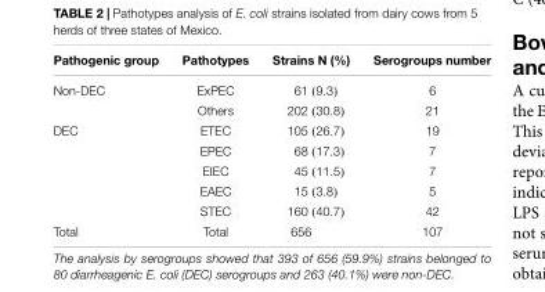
<table><thead><tr><td>Pathogenic group</td><td>Pathotypes</td><td>Strains N (%)</td><td>Serogroups number</td></tr></thead><tbody><tr><td rowspan="2">Non-DEC</td><td>ExPEC</td><td>61 (9.3)</td><td>6</td></tr><tr><td>Others</td><td>202 (30.8)</td><td>21</td></tr><tr><td rowspan="5">DEC</td><td>ETEC</td><td>105 (26.7)</td><td>19</td></tr><tr><td>EPEC</td><td>68 (17.3)</td><td>7</td></tr><tr><td>EIEC</td><td>45 (11.5)</td><td>7</td></tr><tr><td>EAEC</td><td>15 (3.8)</td><td>5</td></tr><tr><td>STEC</td><td>160 (40.7)</td><td>42</td></tr><tr><td>Total</td><td>Total</td><td>656</td><td>107</td></tr></tbody></table>